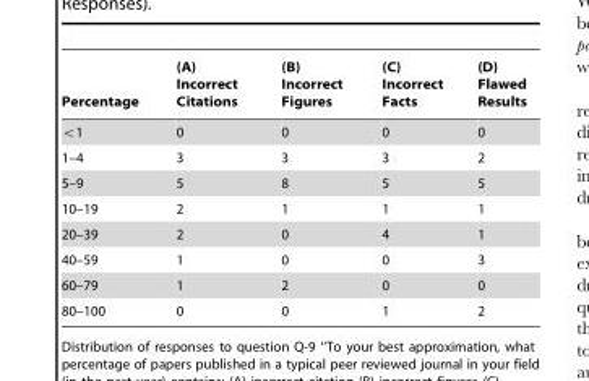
<table><thead><tr><td>Percentage</td><td>(A) Incorrect Citations</td><td>(B) Incorrect Figures</td><td>(C) Incorrect Facts</td><td>(D) Flawed Results</td></tr></thead><tbody><tr><td>v1</td><td>0</td><td>0</td><td>0</td><td>0</td></tr><tr><td>1–4</td><td>3</td><td>3</td><td>3</td><td>2</td></tr><tr><td>5–9</td><td>5</td><td>8</td><td>5</td><td>5</td></tr><tr><td>10–19</td><td>2</td><td>1</td><td>1</td><td>1</td></tr><tr><td>20–39</td><td>2</td><td>0</td><td>4</td><td>1</td></tr><tr><td>40–59</td><td>1</td><td>0</td><td>0</td><td>3</td></tr><tr><td>60–79</td><td>1</td><td>2</td><td>0</td><td>0</td></tr><tr><td>80–100</td><td>0</td><td>0</td><td>1</td><td>2</td></tr></tbody></table>